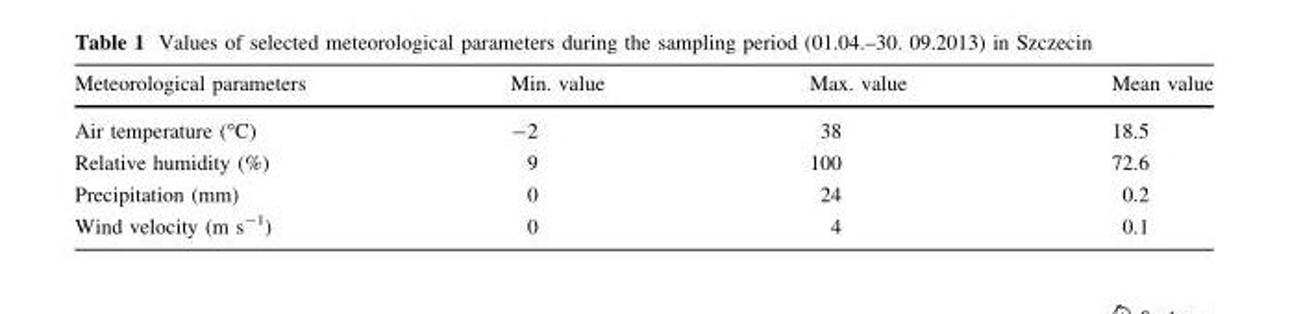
<table><thead><tr><td>Meteorological parameters</td><td>Min. value</td><td>Max. value</td><td>Mean value</td></tr></thead><tbody><tr><td>Air temperature (°C)</td><td>-2</td><td>38</td><td>18.5</td></tr><tr><td>Relative humidity (%)</td><td>9</td><td>100</td><td>72.6</td></tr><tr><td>Precipitation (mm)</td><td>0</td><td>24</td><td>0.2</td></tr><tr><td>Wind velocity (m s<sup>-1</sup>)</td><td>0</td><td>4</td><td>0.1</td></tr></tbody></table>